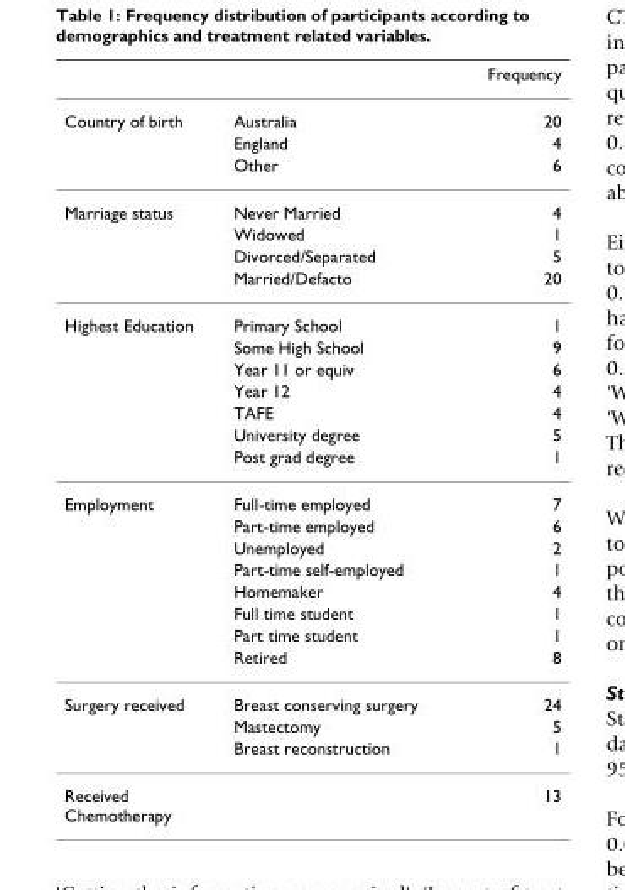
<table><thead><tr><td></td><td></td><td>Frequency</td></tr></thead><tbody><tr><td rowspan="3">Country of birth</td><td>Australia</td><td>20</td></tr><tr><td>England</td><td>4</td></tr><tr><td>Other</td><td>6</td></tr><tr><td rowspan="4">Marriage status</td><td>Never Married</td><td>4</td></tr><tr><td>Widowed</td><td>1</td></tr><tr><td>Divorced/Separated</td><td>5</td></tr><tr><td>Married/Defacto</td><td>20</td></tr><tr><td rowspan="7">Highest Education</td><td>Primary School</td><td>1</td></tr><tr><td>Some High School</td><td>9</td></tr><tr><td>Year 11 or equiv</td><td>6</td></tr><tr><td>Year 12</td><td>4</td></tr><tr><td>TAFE</td><td>4</td></tr><tr><td>University degree</td><td>5</td></tr><tr><td>Post grad degree</td><td>1</td></tr><tr><td rowspan="8">Employment</td><td>Full-time employed</td><td>7</td></tr><tr><td>Part-time employed</td><td>6</td></tr><tr><td>Unemployed</td><td>2</td></tr><tr><td>Part-time self-employed</td><td>1</td></tr><tr><td>Homemaker</td><td>4</td></tr><tr><td>Full time student</td><td>1</td></tr><tr><td>Part time student</td><td>1</td></tr><tr><td>Retired</td><td>8</td></tr><tr><td rowspan="3">Surgery received</td><td>Breast conserving surgery</td><td>24</td></tr><tr><td>Mastectomy</td><td>5</td></tr><tr><td>Breast reconstruction</td><td>1</td></tr><tr><td>Received Chemotherapy</td><td></td><td>13</td></tr></tbody></table>